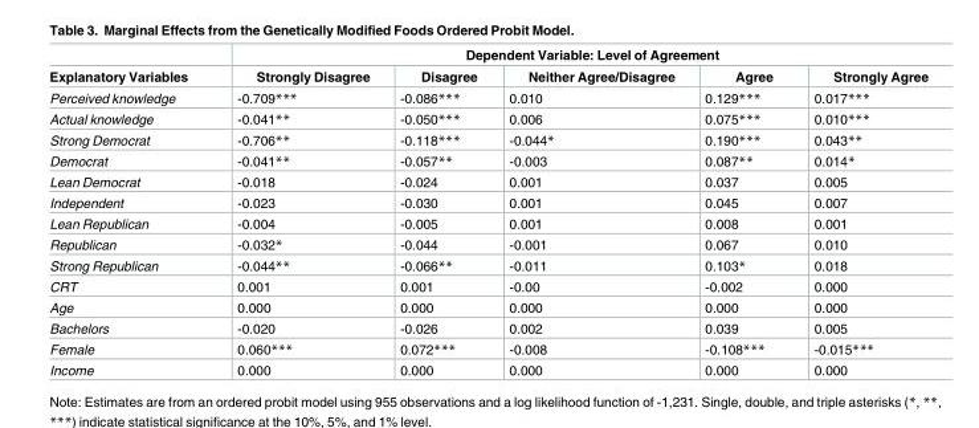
<table><thead><tr><td rowspan="2">Explanatory Variables</td><td colspan="5">Dependent Variable: Level of Agreement</td></tr><tr><td>Strongly Disagree</td><td>Disagree</td><td>Neither Agree/Disagree</td><td>Agree</td><td>Strongly Agree</td></tr></thead><tbody><tr><td>Perceived knowledge</td><td>-0.709***</td><td>-0.086***</td><td>0.010</td><td>0.129***</td><td>0.017***</td></tr><tr><td>Actual knowledge</td><td>-0.041**</td><td>-0.050***</td><td>0.006</td><td>0.075***</td><td>0.010***</td></tr><tr><td>Strong Democrat</td><td>-0.706**</td><td>-0.118***</td><td>-0.044*</td><td>0.190***</td><td>0.043**</td></tr><tr><td>Democrat</td><td>-0.041**</td><td>-0.057**</td><td>-0.003</td><td>0.087**</td><td>0.014*</td></tr><tr><td>Lean Democrat</td><td>-0.018</td><td>-0.024</td><td>0.001</td><td>0.037</td><td>0.005</td></tr><tr><td>Independent</td><td>-0.023</td><td>-0.030</td><td>0.001</td><td>0.045</td><td>0.007</td></tr><tr><td>Lean Republican</td><td>-0.004</td><td>-0.005</td><td>0.001</td><td>0.008</td><td>0.001</td></tr><tr><td>Republican</td><td>-0.032*</td><td>-0.044</td><td>-0.001</td><td>0.067</td><td>0.010</td></tr><tr><td>Strong Republican</td><td>-0.044**</td><td>-0.066**</td><td>-0.011</td><td>0.103*</td><td>0.018</td></tr><tr><td>CRT</td><td>0.001</td><td>0.001</td><td>-0.00</td><td>-0.002</td><td>0.000</td></tr><tr><td>Age</td><td>0.000</td><td>0.000</td><td>0.000</td><td>0.000</td><td>0.000</td></tr><tr><td>Bachelors</td><td>-0.020</td><td>-0.026</td><td>0.002</td><td>0.039</td><td>0.005</td></tr><tr><td>Female</td><td>0.060***</td><td>0.072***</td><td>-0.008</td><td>-0.108***</td><td>-0.015***</td></tr><tr><td>Income</td><td>0.000</td><td>0.000</td><td>0.000</td><td>0.000</td><td>0.000</td></tr></tbody></table>